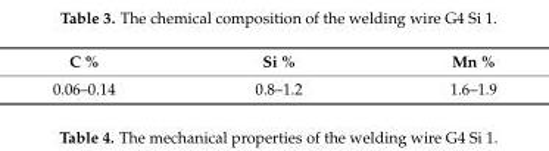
<table><thead><tr><td>C %</td><td>Si %</td><td>Mn %</td></tr></thead><tbody><tr><td>0.06–0.14</td><td>0.8–1.2</td><td>1.6–1.9</td></tr></tbody></table>